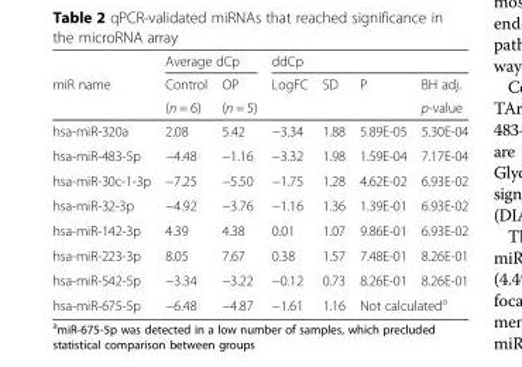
<table><thead><tr><td rowspan="3">miR name</td><td colspan="2">Average dCp</td><td colspan="4">ddCp</td></tr><tr><td rowspan="2">Control (n = 6)</td><td rowspan="2">OP (n = 5)</td><td rowspan="2">LogFC</td><td rowspan="2">SD</td><td rowspan="2">P</td><td rowspan="2">BH adj. p-value</td></tr><tr></tr></thead><tbody><tr><td>hsa-miR-320a</td><td>2.08</td><td>5.42</td><td>−3.34</td><td>1.88</td><td>5.89E-05</td><td>5.30E-04</td></tr><tr><td>hsa-miR-483-5p</td><td>−4.48</td><td>−1.16</td><td>−3.32</td><td>1.98</td><td>1.59E-04</td><td>7.17E-04</td></tr><tr><td>hsa-miR-30c-1-3p</td><td>−7.25</td><td>−5.50</td><td>−1.75</td><td>1.28</td><td>4.62E-02</td><td>6.93E-02</td></tr><tr><td>hsa-miR-32-3p</td><td>−4.92</td><td>−3.76</td><td>−1.16</td><td>1.36</td><td>1.39E-01</td><td>6.93E-02</td></tr><tr><td>hsa-miR-142-3p</td><td>4.39</td><td>4.38</td><td>0.01</td><td>1.07</td><td>9.86E-01</td><td>6.93E-02</td></tr><tr><td>hsa-miR-223-3p</td><td>8.05</td><td>7.67</td><td>0.38</td><td>1.57</td><td>7.48E-01</td><td>8.26E-01</td></tr><tr><td>hsa-miR-542-5p</td><td>−3.34</td><td>−3.22</td><td>−0.12</td><td>0.73</td><td>8.26E-01</td><td>8.26E-01</td></tr><tr><td>hsa-miR-675-5p</td><td>−6.48</td><td>−4.87</td><td>−1.61</td><td>1.16</td><td colspan="2">Not calculated<sup>a</sup></td></tr></tbody></table>